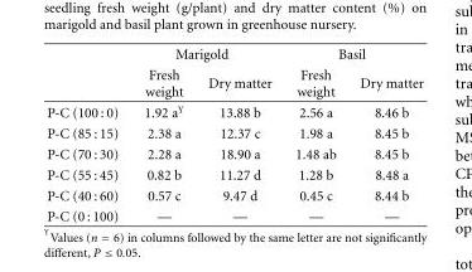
<table><thead><tr><td rowspan="2"></td><td colspan="2">Marigold</td><td colspan="2">Basil</td></tr><tr><td>Fresh weight</td><td>Dry matter</td><td>Fresh weight</td><td>Dry matter</td></tr></thead><tbody><tr><td>P-C (100 : 0)</td><td>1.92 a<sup>Y</sup></td><td>13.88 b</td><td>2.56 a</td><td>8.46 b</td></tr><tr><td>P-C (85 : 15)</td><td>2.38 a</td><td>12.37 c</td><td>1.98 a</td><td>8.45 b</td></tr><tr><td>P-C (70 : 30)</td><td>2.28 a</td><td>18.90 a</td><td>1.48 ab</td><td>8.45 b</td></tr><tr><td>P-C (55 : 45)</td><td>0.82 b</td><td>11.27 d</td><td>1.28 b</td><td>8.48 a</td></tr><tr><td>P-C (40 : 60)</td><td>0.57 c</td><td>9.47 d</td><td>0.45 c</td><td>8.44 b</td></tr><tr><td>P-C (0 : 100)</td><td>—</td><td>—</td><td>—</td><td>—</td></tr></tbody></table>